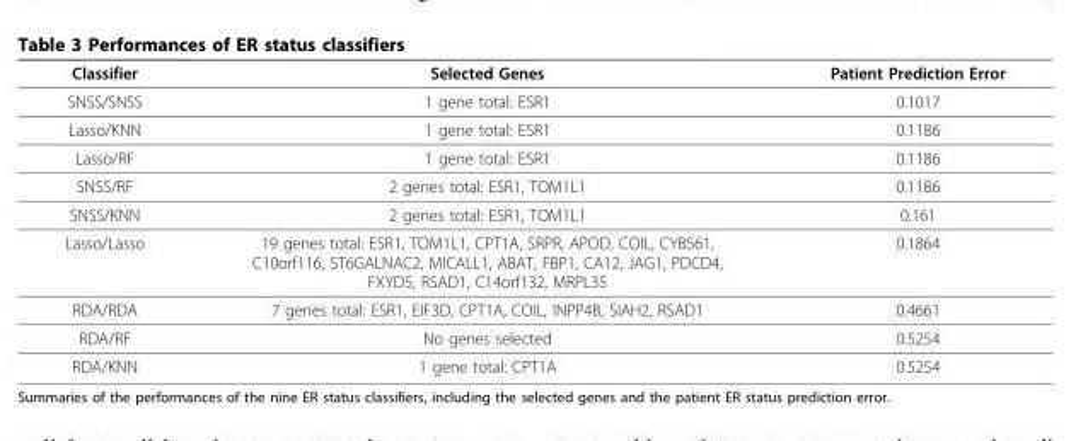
<table><thead><tr><td>Classifier</td><td>Selected Genes</td><td>Patient Prediction Error</td></tr></thead><tbody><tr><td>SNSS/SNSS</td><td>1 gene total: ESR1</td><td>0.1017</td></tr><tr><td>Lasso/KNN</td><td>1 gene total: ESR1</td><td>0.1186</td></tr><tr><td>Lasso/RF</td><td>1 gene total: ESR1</td><td>0.1186</td></tr><tr><td>SNSS/RF</td><td>2 genes total: ESR1, TOM1L1</td><td>0.1186</td></tr><tr><td>SNSS/KNN</td><td>2 genes total: ESR1, TOM1L1</td><td>0.161</td></tr><tr><td>Lasso/Lasso</td><td>19 genes total: ESR1, TOM1L1, CPT1A, SRPR, APOD, COIL, CYB561, C10orf116, ST6GALNAC2, MICALL1, ABAT, FBP1, CA12, JAG1, PDCD4, FXYD5, RSAD1, C14orf132, MRPL35</td><td>0.1864</td></tr><tr><td>RDA/RDA</td><td>7 genes total: ESR1, EIF3D, CPT1A, COIL, INPP4B, SIAH2, RSAD1</td><td>0.4661</td></tr><tr><td>RDA/RF</td><td>No genes selected</td><td>0.5254</td></tr><tr><td>RDA/KNN</td><td>1 gene total: CPT1A</td><td>0.5254</td></tr></tbody></table>